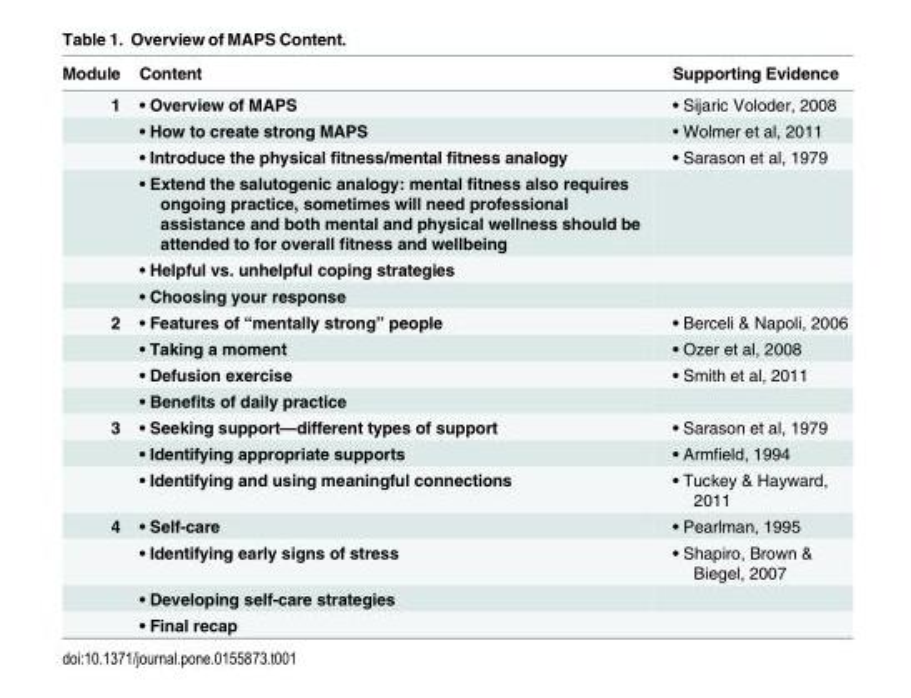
<table><thead><tr><td>Module</td><td>Content</td><td>Supporting Evidence</td></tr></thead><tbody><tr><td rowspan="6">1</td><td>• Overview of MAPS</td><td>• Sijaric Voloder, 2008</td></tr><tr><td>• How to create strong MAPS</td><td>• Wolmer et al, 2011</td></tr><tr><td>• Introduce the physical fitness/mental fitness analogy</td><td>• Sarason et al, 1979</td></tr><tr><td>• Extend the salutogenic analogy: mental fitness also requires ongoing practice, sometimes will need professional assistance and both mental and physical wellness should be attended to for overall fitness and wellbeing</td><td></td></tr><tr><td>• Helpful vs. unhelpful coping strategies</td><td></td></tr><tr><td>• Choosing your response</td><td></td></tr><tr><td rowspan="4">2</td><td>• Features of “mentally strong” people</td><td>• Berceli &amp; Napoli, 2006</td></tr><tr><td>• Taking a moment</td><td>• Ozer et al, 2008</td></tr><tr><td>• Defusion exercise</td><td>• Smith et al, 2011</td></tr><tr><td>• Benefits of daily practice</td><td></td></tr><tr><td rowspan="3">3</td><td>• Seeking support—different types of support</td><td>• Sarason et al, 1979</td></tr><tr><td>• Identifying appropriate supports</td><td>• Armfield, 1994</td></tr><tr><td>• Identifying and using meaningful connections</td><td>• Tuckey &amp; Hayward, 2011</td></tr><tr><td rowspan="4">4</td><td>• Self-care</td><td>• Pearlman, 1995</td></tr><tr><td>• Identifying early signs of stress</td><td>• Shapiro, Brown &amp; Biegel, 2007</td></tr><tr><td>• Developing self-care strategies</td><td></td></tr><tr><td>• Final recap</td><td></td></tr></tbody></table>